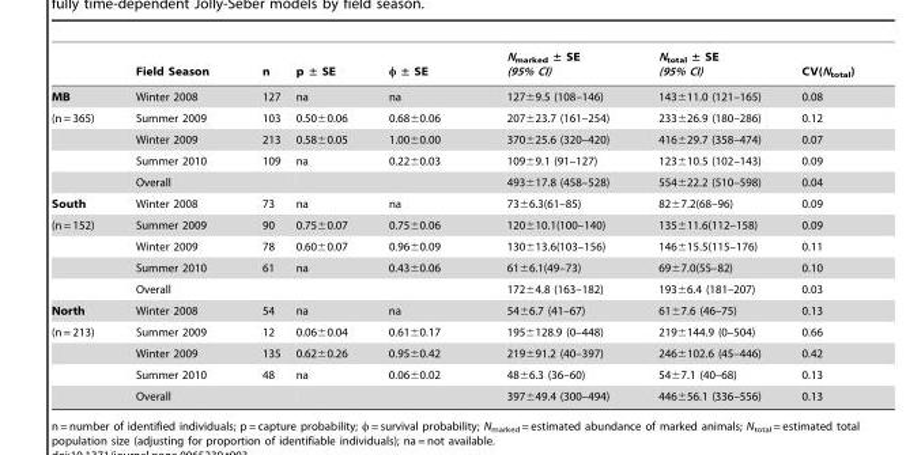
<table><thead><tr><td></td><td>Field Season</td><td>n</td><td>p ± SE</td><td>φ ± SE</td><td>N<sub>marked</sub> ± SE (95% CI)</td><td>N<sub>total</sub> ± SE (95% CI)</td><td>CV(N<sub>total</sub>)</td></tr></thead><tbody><tr><td>MB</td><td>Winter 2008</td><td>127</td><td>na</td><td>na</td><td>127±9.5 (108–146)</td><td>143±11.0 (121–165)</td><td>0.08</td></tr><tr><td rowspan="4">(n = 365)</td><td>Summer 2009</td><td>103</td><td>0.50±0.06</td><td>0.68±0.06</td><td>207±23.7 (161–254)</td><td>233±26.9 (180–286)</td><td>0.12</td></tr><tr><td>Winter 2009</td><td>213</td><td>0.58±0.05</td><td>1.00±0.00</td><td>370±25.6 (320–420)</td><td>416±29.7 (358–474)</td><td>0.07</td></tr><tr><td>Summer 2010</td><td>109</td><td>na</td><td>0.22±0.03</td><td>109±9.1 (91–127)</td><td>123±10.5 (102–143)</td><td>0.09</td></tr><tr><td>Overall</td><td></td><td></td><td></td><td>493±17.8 (458–528)</td><td>554±22.2 (510–598)</td><td>0.04</td></tr><tr><td>South</td><td>Winter 2008</td><td>73</td><td>na</td><td>na</td><td>73±6.3(61–85)</td><td>82±7.2(68–96)</td><td>0.09</td></tr><tr><td rowspan="4">(n = 152)</td><td>Summer 2009</td><td>90</td><td>0.75±0.07</td><td>0.75±0.06</td><td>120±10.1(100–140)</td><td>135±11.6(112–158)</td><td>0.09</td></tr><tr><td>Winter 2009</td><td>78</td><td>0.60±0.07</td><td>0.96±0.09</td><td>130±13.6(103–156)</td><td>146±15.5(115–176)</td><td>0.11</td></tr><tr><td>Summer 2010</td><td>61</td><td>na</td><td>0.43±0.06</td><td>61±6.1(49–73)</td><td>69±7.0(55–82)</td><td>0.10</td></tr><tr><td>Overall</td><td></td><td></td><td></td><td>172±4.8 (163–182)</td><td>193±6.4 (181–207)</td><td>0.03</td></tr><tr><td>North</td><td>Winter 2008</td><td>54</td><td>na</td><td>na</td><td>54±6.7 (41–67)</td><td>61±7.6 (46–75)</td><td>0.13</td></tr><tr><td rowspan="4">(n = 213)</td><td>Summer 2009</td><td>12</td><td>0.06±0.04</td><td>0.61±0.17</td><td>195±128.9 (0–448)</td><td>219±144.9 (0–504)</td><td>0.66</td></tr><tr><td>Winter 2009</td><td>135</td><td>0.62±0.26</td><td>0.95±0.42</td><td>219±91.2 (40–397)</td><td>246±102.6 (45–446)</td><td>0.42</td></tr><tr><td>Summer 2010</td><td>48</td><td>na</td><td>0.06±0.02</td><td>48±6.3 (36–60)</td><td>54±7.1 (40–68)</td><td>0.13</td></tr><tr><td>Overall</td><td></td><td></td><td></td><td>397±49.4 (300–494)</td><td>446±56.1 (336–556)</td><td>0.13</td></tr></tbody></table>